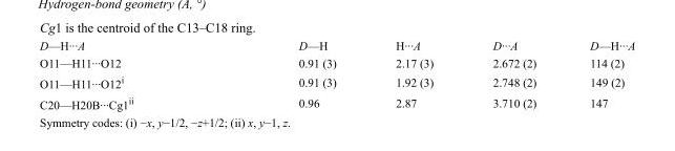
<table><tbody><tr><td>D—H···A</td><td>D—H</td><td>H···A</td><td>D···A</td><td>D—H···A</td></tr><tr><td>O11—H11···O12</td><td>0.91 (3)</td><td>2.17 (3)</td><td>2.672 (2)</td><td>114 (2)</td></tr><tr><td>O11—H11···O12<sup>i</sup></td><td>0.91 (3)</td><td>1.92 (3)</td><td>2.748 (2)</td><td>149 (2)</td></tr><tr><td>C20—H20B···Cg1<sup>ii</sup></td><td>0.96</td><td>2.87</td><td>3.710 (2)</td><td>147</td></tr></tbody></table>